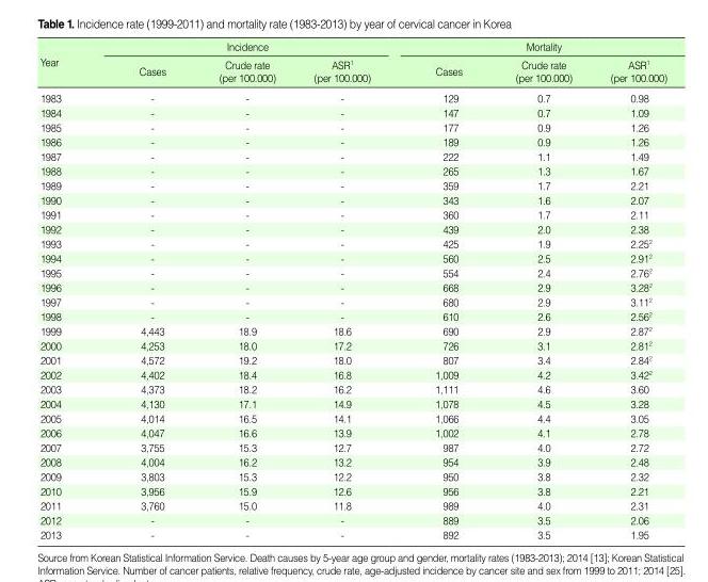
<table><thead><tr><td rowspan="2">Year</td><td colspan="3">Incidence</td><td colspan="3">Mortality</td></tr><tr><td>Cases</td><td>Crude rate (per 100.000)</td><td>ASR<sup>1</sup> (per 100.000)</td><td>Cases</td><td>Crude rate (per 100.000)</td><td>ASR<sup>1</sup> (per 100.000)</td></tr></thead><tbody><tr><td>1983</td><td>-</td><td>-</td><td>-</td><td>129</td><td>0.7</td><td>0.98</td></tr><tr><td>1984</td><td>-</td><td>-</td><td>-</td><td>147</td><td>0.7</td><td>1.09</td></tr><tr><td>1985</td><td>-</td><td>-</td><td>-</td><td>177</td><td>0.9</td><td>1.26</td></tr><tr><td>1986</td><td>-</td><td>-</td><td>-</td><td>189</td><td>0.9</td><td>1.26</td></tr><tr><td>1987</td><td>-</td><td>-</td><td>-</td><td>222</td><td>1.1</td><td>1.49</td></tr><tr><td>1988</td><td>-</td><td>-</td><td>-</td><td>265</td><td>1.3</td><td>1.67</td></tr><tr><td>1989</td><td>-</td><td>-</td><td>-</td><td>359</td><td>1.7</td><td>2.21</td></tr><tr><td>1990</td><td>-</td><td>-</td><td>-</td><td>343</td><td>1.6</td><td>2.07</td></tr><tr><td>1991</td><td>-</td><td>-</td><td>-</td><td>360</td><td>1.7</td><td>2.11</td></tr><tr><td>1992</td><td>-</td><td>-</td><td>-</td><td>439</td><td>2.0</td><td>2.38</td></tr><tr><td>1993</td><td>-</td><td>-</td><td>-</td><td>425</td><td>1.9</td><td>2.25<sup>2</sup></td></tr><tr><td>1994</td><td>-</td><td>-</td><td>-</td><td>560</td><td>2.5</td><td>2.91<sup>2</sup></td></tr><tr><td>1995</td><td>-</td><td>-</td><td>-</td><td>554</td><td>2.4</td><td>2.76<sup>2</sup></td></tr><tr><td>1996</td><td>-</td><td>-</td><td>-</td><td>668</td><td>2.9</td><td>3.28<sup>2</sup></td></tr><tr><td>1997</td><td>-</td><td>-</td><td>-</td><td>680</td><td>2.9</td><td>3.11<sup>2</sup></td></tr><tr><td>1998</td><td>-</td><td>-</td><td>-</td><td>610</td><td>2.6</td><td>2.56<sup>2</sup></td></tr><tr><td>1999</td><td>4,443</td><td>18.9</td><td>18.6</td><td>690</td><td>2.9</td><td>2.87<sup>2</sup></td></tr><tr><td>2000</td><td>4,253</td><td>18.0</td><td>17.2</td><td>726</td><td>3.1</td><td>2.81<sup>2</sup></td></tr><tr><td>2001</td><td>4,572</td><td>19.2</td><td>18.0</td><td>807</td><td>3.4</td><td>2.84<sup>2</sup></td></tr><tr><td>2002</td><td>4,402</td><td>18.4</td><td>16.8</td><td>1,009</td><td>4.2</td><td>3.42<sup>2</sup></td></tr><tr><td>2003</td><td>4,373</td><td>18.2</td><td>16.2</td><td>1,111</td><td>4.6</td><td>3.60</td></tr><tr><td>2004</td><td>4,130</td><td>17.1</td><td>14.9</td><td>1,078</td><td>4.5</td><td>3.28</td></tr><tr><td>2005</td><td>4,014</td><td>16.5</td><td>14.1</td><td>1,066</td><td>4.4</td><td>3.05</td></tr><tr><td>2006</td><td>4,047</td><td>16.6</td><td>13.9</td><td>1,002</td><td>4.1</td><td>2.78</td></tr><tr><td>2007</td><td>3,755</td><td>15.3</td><td>12.7</td><td>987</td><td>4.0</td><td>2.72</td></tr><tr><td>2008</td><td>4,004</td><td>16.2</td><td>13.2</td><td>954</td><td>3.9</td><td>2.48</td></tr><tr><td>2009</td><td>3,803</td><td>15.3</td><td>12.2</td><td>950</td><td>3.8</td><td>2.32</td></tr><tr><td>2010</td><td>3,956</td><td>15.9</td><td>12.6</td><td>956</td><td>3.8</td><td>2.21</td></tr><tr><td>2011</td><td>3,760</td><td>15.0</td><td>11.8</td><td>989</td><td>4.0</td><td>2.31</td></tr><tr><td>2012</td><td>-</td><td>-</td><td>-</td><td>889</td><td>3.5</td><td>2.06</td></tr><tr><td>2013</td><td>-</td><td>-</td><td>-</td><td>892</td><td>3.5</td><td>1.95</td></tr></tbody></table>